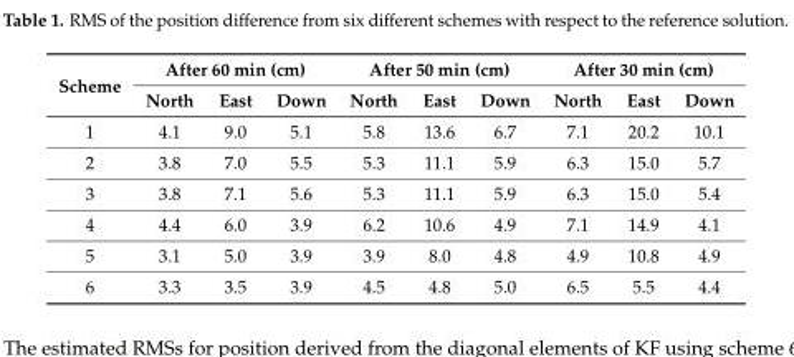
<table><thead><tr><td rowspan="2">Scheme</td><td colspan="3">After 60 min (cm)</td><td colspan="3">After 50 min (cm)</td><td colspan="3">After 30 min (cm)</td></tr><tr><td>North</td><td>East</td><td>Down</td><td>North</td><td>East</td><td>Down</td><td>North</td><td>East</td><td>Down</td></tr></thead><tbody><tr><td>1</td><td>4.1</td><td>9.0</td><td>5.1</td><td>5.8</td><td>13.6</td><td>6.7</td><td>7.1</td><td>20.2</td><td>10.1</td></tr><tr><td>2</td><td>3.8</td><td>7.0</td><td>5.5</td><td>5.3</td><td>11.1</td><td>5.9</td><td>6.3</td><td>15.0</td><td>5.7</td></tr><tr><td>3</td><td>3.8</td><td>7.1</td><td>5.6</td><td>5.3</td><td>11.1</td><td>5.9</td><td>6.3</td><td>15.0</td><td>5.4</td></tr><tr><td>4</td><td>4.4</td><td>6.0</td><td>3.9</td><td>6.2</td><td>10.6</td><td>4.9</td><td>7.1</td><td>14.9</td><td>4.1</td></tr><tr><td>5</td><td>3.1</td><td>5.0</td><td>3.9</td><td>3.9</td><td>8.0</td><td>4.8</td><td>4.9</td><td>10.8</td><td>4.9</td></tr><tr><td>6</td><td>3.3</td><td>3.5</td><td>3.9</td><td>4.5</td><td>4.8</td><td>5.0</td><td>6.5</td><td>5.5</td><td>4.4</td></tr></tbody></table>